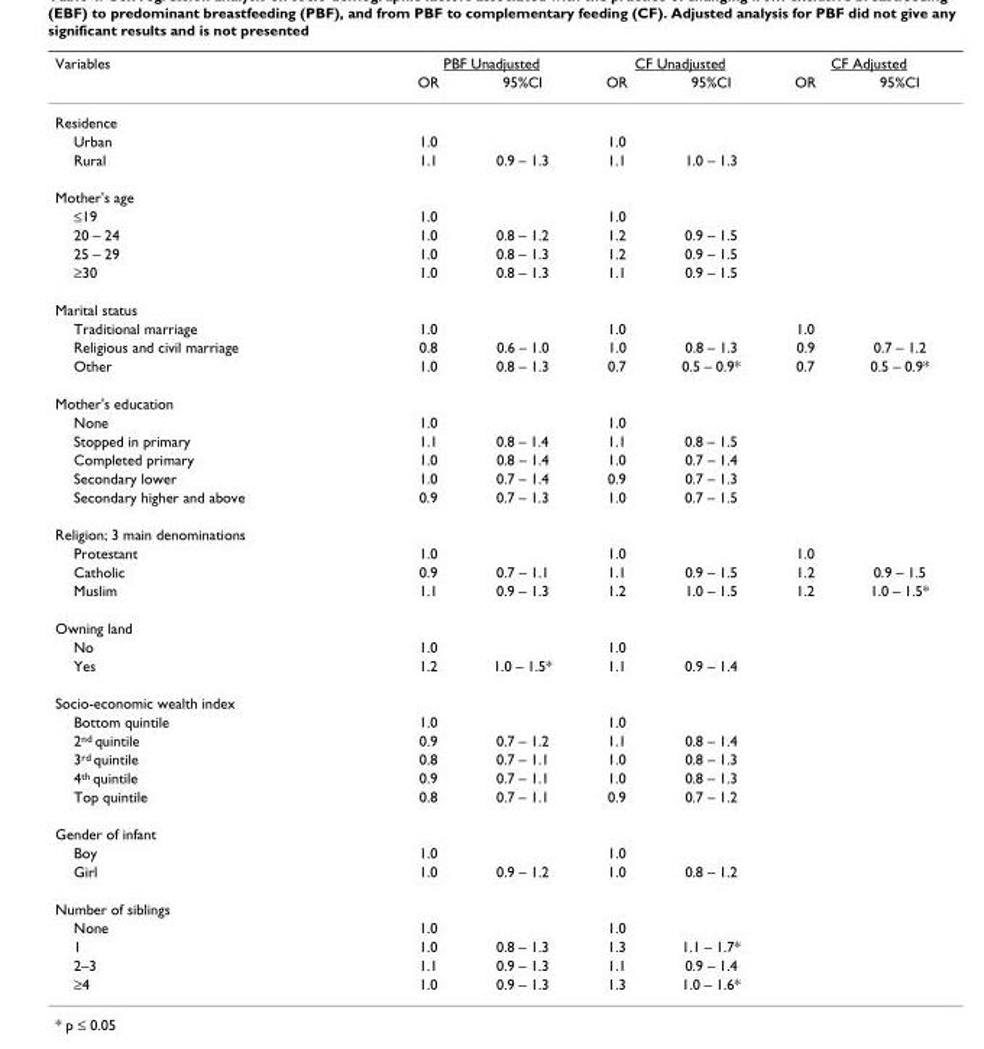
<table><thead><tr><td rowspan="2">Variables</td><td colspan="2">PBF Unadjusted</td><td colspan="2">CF Unadjusted</td><td colspan="2">CF Adjusted</td></tr><tr><td>OR</td><td>95%CI</td><td>OR</td><td>95%CI</td><td>OR</td><td>95%CI</td></tr></thead><tbody><tr><td colspan="7">Residence</td></tr><tr><td>Urban</td><td>1.0</td><td></td><td>1.0</td><td></td><td></td><td></td></tr><tr><td>Rural</td><td>1.1</td><td>0.9 – 1.3</td><td>1.1</td><td>1.0 – 1.3</td><td></td><td></td></tr><tr><td colspan="7">Mother&#x27;s age</td></tr><tr><td>≤19</td><td>1.0</td><td></td><td>1.0</td><td></td><td></td><td></td></tr><tr><td>20 – 24</td><td>1.0</td><td>0.8 – 1.2</td><td>1.2</td><td>0.9 – 1.5</td><td></td><td></td></tr><tr><td>25 – 29</td><td>1.0</td><td>0.8 – 1.3</td><td>1.2</td><td>0.9 – 1.5</td><td></td><td></td></tr><tr><td>≥30</td><td>1.0</td><td>0.8 – 1.3</td><td>1.1</td><td>0.9 – 1.5</td><td></td><td></td></tr><tr><td colspan="7">Marital status</td></tr><tr><td>Traditional marriage</td><td>1.0</td><td></td><td>1.0</td><td></td><td>1.0</td><td></td></tr><tr><td>Religious and civil marriage</td><td>0.8</td><td>0.6 – 1.0</td><td>1.0</td><td>0.8 – 1.3</td><td>0.9</td><td>0.7 – 1.2</td></tr><tr><td>Other</td><td>1.0</td><td>0.8 – 1.3</td><td>0.7</td><td>0.5 – 0.9*</td><td>0.7</td><td>0.5 – 0.9*</td></tr><tr><td colspan="7">Mother&#x27;s education</td></tr><tr><td>None</td><td>1.0</td><td></td><td>1.0</td><td></td><td></td><td></td></tr><tr><td>Stopped in primary</td><td>1.1</td><td>0.8 – 1.4</td><td>1.1</td><td>0.8 – 1.5</td><td></td><td></td></tr><tr><td>Completed primary</td><td>1.0</td><td>0.8 – 1.4</td><td>1.0</td><td>0.7 – 1.4</td><td></td><td></td></tr><tr><td>Secondary lower</td><td>1.0</td><td>0.7 – 1.4</td><td>0.9</td><td>0.7 – 1.3</td><td></td><td></td></tr><tr><td>Secondary higher and above</td><td>0.9</td><td>0.7 – 1.3</td><td>1.0</td><td>0.7 – 1.5</td><td></td><td></td></tr><tr><td colspan="7">Religion; 3 main denominations</td></tr><tr><td>Protestant</td><td>1.0</td><td></td><td>1.0</td><td></td><td>1.0</td><td></td></tr><tr><td>Catholic</td><td>0.9</td><td>0.7 – 1.1</td><td>1.1</td><td>0.9 – 1.5</td><td>1.2</td><td>0.9 – 1.5</td></tr><tr><td>Muslim</td><td>1.1</td><td>0.9 – 1.3</td><td>1.2</td><td>1.0 – 1.5</td><td>1.2</td><td>1.0 – 1.5*</td></tr><tr><td colspan="7">Owning land</td></tr><tr><td>No</td><td>1.0</td><td></td><td>1.0</td><td></td><td></td><td></td></tr><tr><td>Yes</td><td>1.2</td><td>1.0 – 1.5*</td><td>1.1</td><td>0.9 – 1.4</td><td></td><td></td></tr><tr><td colspan="7">Socio-economic wealth index</td></tr><tr><td>Bottom quintile</td><td>1.0</td><td></td><td>1.0</td><td></td><td></td><td></td></tr><tr><td>2nd quintile</td><td>0.9</td><td>0.7 – 1.2</td><td>1.1</td><td>0.8 – 1.4</td><td></td><td></td></tr><tr><td>3rd quintile</td><td>0.8</td><td>0.7 – 1.1</td><td>1.0</td><td>0.8 – 1.3</td><td></td><td></td></tr><tr><td>4th quintile</td><td>0.9</td><td>0.7 – 1.1</td><td>1.0</td><td>0.8 – 1.3</td><td></td><td></td></tr><tr><td>Top quintile</td><td>0.8</td><td>0.7 – 1.1</td><td>0.9</td><td>0.7 – 1.2</td><td></td><td></td></tr><tr><td colspan="7">Gender of infant</td></tr><tr><td>Boy</td><td>1.0</td><td></td><td>1.0</td><td></td><td></td><td></td></tr><tr><td>Girl</td><td>1.0</td><td>0.9 – 1.2</td><td>1.0</td><td>0.8 – 1.2</td><td></td><td></td></tr><tr><td colspan="7">Number of siblings</td></tr><tr><td>None</td><td>1.0</td><td></td><td>1.0</td><td></td><td></td><td></td></tr><tr><td>1</td><td>1.0</td><td>0.8 – 1.3</td><td>1.3</td><td>1.1 – 1.7*</td><td></td><td></td></tr><tr><td>2–3</td><td>1.1</td><td>0.9 – 1.3</td><td>1.1</td><td>0.9 – 1.4</td><td></td><td></td></tr><tr><td>≥4</td><td>1.0</td><td>0.9 – 1.3</td><td>1.3</td><td>1.0 – 1.6*</td><td></td><td></td></tr></tbody></table>